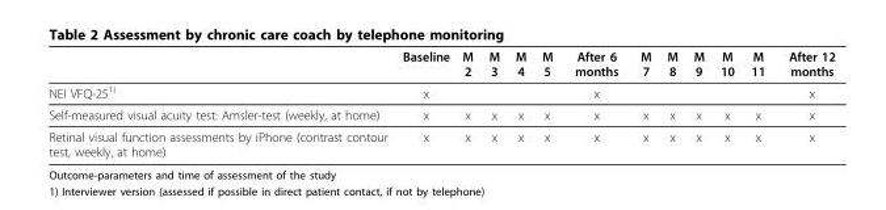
<table><thead><tr><td></td><td>Baseline</td><td>M 2</td><td>M 3</td><td>M 4</td><td>M 5</td><td>After 6 months</td><td>M 7</td><td>M 8</td><td>M 9</td><td>M 10</td><td>M 11</td><td>After 12 months</td></tr></thead><tbody><tr><td>NEI VFQ-25<sup>1)</sup></td><td>x</td><td></td><td></td><td></td><td></td><td>x</td><td></td><td></td><td></td><td></td><td></td><td>x</td></tr><tr><td>Self-measured visual acuity test: Amsler-test (weekly, at home)</td><td>x</td><td>x</td><td>x</td><td>x</td><td>x</td><td>x</td><td>x</td><td>x</td><td>x</td><td>x</td><td>x</td><td>x</td></tr><tr><td>Retinal visual function assessments by iPhone (contrast contour test, weekly, at home)</td><td>x</td><td>x</td><td>x</td><td>x</td><td>x</td><td>x</td><td>x</td><td>x</td><td>x</td><td>x</td><td>x</td><td>x</td></tr></tbody></table>